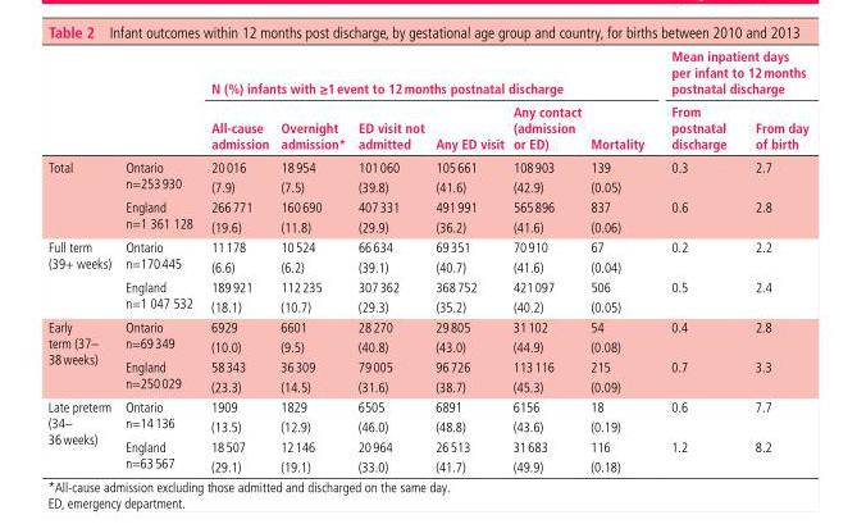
<table><thead><tr><td rowspan="2"></td><td rowspan="2"></td><td colspan="6">N (%) infants with ≥1 event to 12 months postnatal discharge</td><td colspan="2">Mean inpatient days per infant to 12 months postnatal discharge</td></tr><tr><td>All-cause admission</td><td>Overnight admission*</td><td>ED visit not admitted</td><td>Any ED visit</td><td>Any contact (admission or ED)</td><td>Mortality</td><td>From postnatal discharge</td><td>From day of birth</td></tr></thead><tbody><tr><td rowspan="4">Total</td><td rowspan="2">Ontario n=253 930</td><td>20 016</td><td>18 954</td><td>101 060</td><td>105 661</td><td>108 903</td><td>139</td><td>0.3</td><td>2.7</td></tr><tr><td>(7.9)</td><td>(7.5)</td><td>(39.8)</td><td>(41.6)</td><td>(42.9)</td><td>(0.05)</td><td></td><td></td></tr><tr><td rowspan="2">England n=1 361 128</td><td>266 771</td><td>160 690</td><td>407 331</td><td>491 991</td><td>565 896</td><td>837</td><td>0.6</td><td>2.8</td></tr><tr><td>(19.6)</td><td>(11.8)</td><td>(29.9)</td><td>(36.2)</td><td>(41.6)</td><td>(0.06)</td><td></td><td></td></tr><tr><td rowspan="4">Full term (39+ weeks)</td><td rowspan="2">Ontario n=170 445</td><td>11 178</td><td>10 524</td><td>66 634</td><td>69 351</td><td>70 910</td><td>67</td><td>0.2</td><td>2.2</td></tr><tr><td>(6.6)</td><td>(6.2)</td><td>(39.1)</td><td>(40.7)</td><td>(41.6)</td><td>(0.04)</td><td></td><td></td></tr><tr><td rowspan="2">England n=1 047 532</td><td>189 921</td><td>112 235</td><td>307 362</td><td>368 752</td><td>421 097</td><td>506</td><td>0.5</td><td>2.4</td></tr><tr><td>(18.1)</td><td>(10.7)</td><td>(29.3)</td><td>(35.2)</td><td>(40.2)</td><td>(0.05)</td><td></td><td></td></tr><tr><td rowspan="4">Early term (37– 38 weeks)</td><td rowspan="2">Ontario n=69 349</td><td>6929</td><td>6601</td><td>28 270</td><td>29 805</td><td>31 102</td><td>54</td><td>0.4</td><td>2.8</td></tr><tr><td>(10.0)</td><td>(9.5)</td><td>(40.8)</td><td>(43.0)</td><td>(44.9)</td><td>(0.08)</td><td></td><td></td></tr><tr><td rowspan="2">England n=250 029</td><td>58 343</td><td>36 309</td><td>79 005</td><td>96 726</td><td>113 116</td><td>215</td><td>0.7</td><td>3.3</td></tr><tr><td>(23.3)</td><td>(14.5)</td><td>(31.6)</td><td>(38.7)</td><td>(45.3)</td><td>(0.09)</td><td></td><td></td></tr><tr><td rowspan="4">Late preterm (34– 36 weeks)</td><td rowspan="2">Ontario n=14 136</td><td>1909</td><td>1829</td><td>6505</td><td>6891</td><td>6156</td><td>18</td><td>0.6</td><td>7.7</td></tr><tr><td>(13.5)</td><td>(12.9)</td><td>(46.0)</td><td>(48.8)</td><td>(43.6)</td><td>(0.19)</td><td></td><td></td></tr><tr><td rowspan="2">England n=63 567</td><td>18 507</td><td>12 146</td><td>20 964</td><td>26 513</td><td>31 683</td><td>116</td><td>1.2</td><td>8.2</td></tr><tr><td>(29.1)</td><td>(19.1)</td><td>(33.0)</td><td>(41.7)</td><td>(49.9)</td><td>(0.18)</td><td></td><td></td></tr></tbody></table>